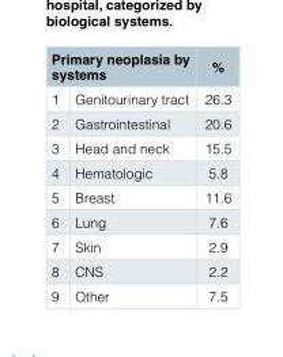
<table><thead><tr><td colspan="2">Primary neoplasia by systems</td><td rowspan="2">% 26.3</td></tr><tr><td>1</td><td>Genitourinary tract</td></tr></thead><tbody><tr><td>2</td><td>Gastrointestinal</td><td>20.6</td></tr><tr><td>3</td><td>Head and neck</td><td>15.5</td></tr><tr><td>4</td><td>Hematologic</td><td>5.8</td></tr><tr><td>5</td><td>Breast</td><td>11.6</td></tr><tr><td>6</td><td>Lung</td><td>7.6</td></tr><tr><td>7</td><td>Skin</td><td>2.9</td></tr><tr><td>8</td><td>CNS</td><td>2.2</td></tr><tr><td>9</td><td>Other</td><td>7.5</td></tr></tbody></table>